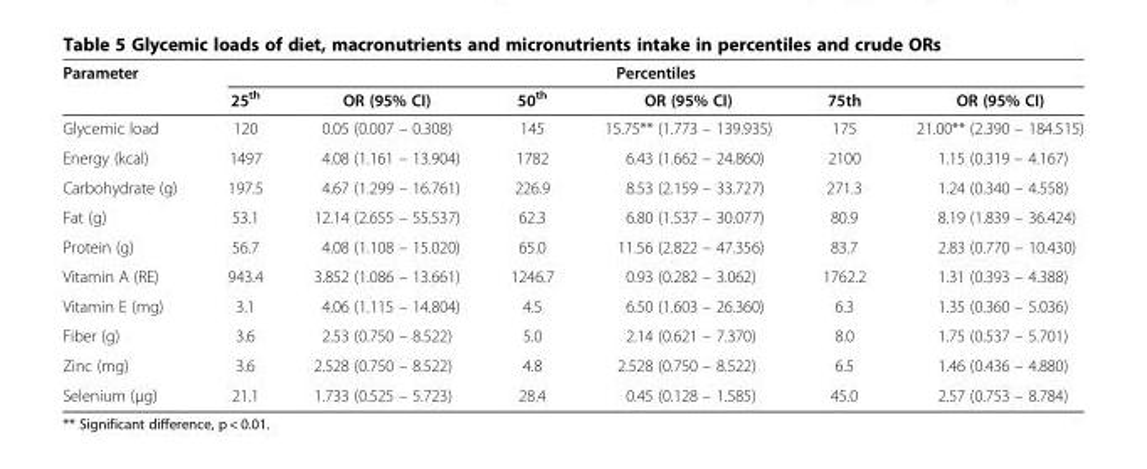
<table><thead><tr><td rowspan="2">Parameter</td><td colspan="6">Percentiles</td></tr><tr><td>25<sup>th</sup></td><td>OR (95% CI)</td><td>50<sup>th</sup></td><td>OR (95% CI)</td><td>75th</td><td>OR (95% CI)</td></tr></thead><tbody><tr><td>Glycemic load</td><td>120</td><td>0.05 (0.007 – 0.308)</td><td>145</td><td>15.75** (1.773 – 139.935)</td><td>175</td><td>21.00** (2.390 – 184.515)</td></tr><tr><td>Energy (kcal)</td><td>1497</td><td>4.08 (1.161 – 13.904)</td><td>1782</td><td>6.43 (1.662 – 24.860)</td><td>2100</td><td>1.15 (0.319 – 4.167)</td></tr><tr><td>Carbohydrate (g)</td><td>197.5</td><td>4.67 (1.299 – 16.761)</td><td>226.9</td><td>8.53 (2.159 – 33.727)</td><td>271.3</td><td>1.24 (0.340 – 4.558)</td></tr><tr><td>Fat (g)</td><td>53.1</td><td>12.14 (2.655 – 55.537)</td><td>62.3</td><td>6.80 (1.537 – 30.077)</td><td>80.9</td><td>8.19 (1.839 – 36.424)</td></tr><tr><td>Protein (g)</td><td>56.7</td><td>4.08 (1.108 – 15.020)</td><td>65.0</td><td>11.56 (2.822 – 47.356)</td><td>83.7</td><td>2.83 (0.770 – 10.430)</td></tr><tr><td>Vitamin A (RE)</td><td>943.4</td><td>3.852 (1.086 – 13.661)</td><td>1246.7</td><td>0.93 (0.282 – 3.062)</td><td>1762.2</td><td>1.31 (0.393 – 4.388)</td></tr><tr><td>Vitamin E (mg)</td><td>3.1</td><td>4.06 (1.115 – 14.804)</td><td>4.5</td><td>6.50 (1.603 – 26.360)</td><td>6.3</td><td>1.35 (0.360 – 5.036)</td></tr><tr><td>Fiber (g)</td><td>3.6</td><td>2.53 (0.750 – 8.522)</td><td>5.0</td><td>2.14 (0.621 – 7.370)</td><td>8.0</td><td>1.75 (0.537 – 5.701)</td></tr><tr><td>Zinc (mg)</td><td>3.6</td><td>2.528 (0.750 – 8.522)</td><td>4.8</td><td>2.528 (0.750 – 8.522)</td><td>6.5</td><td>1.46 (0.436 – 4.880)</td></tr><tr><td>Selenium (μg)</td><td>21.1</td><td>1.733 (0.525 – 5.723)</td><td>28.4</td><td>0.45 (0.128 – 1.585)</td><td>45.0</td><td>2.57 (0.753 – 8.784)</td></tr></tbody></table>